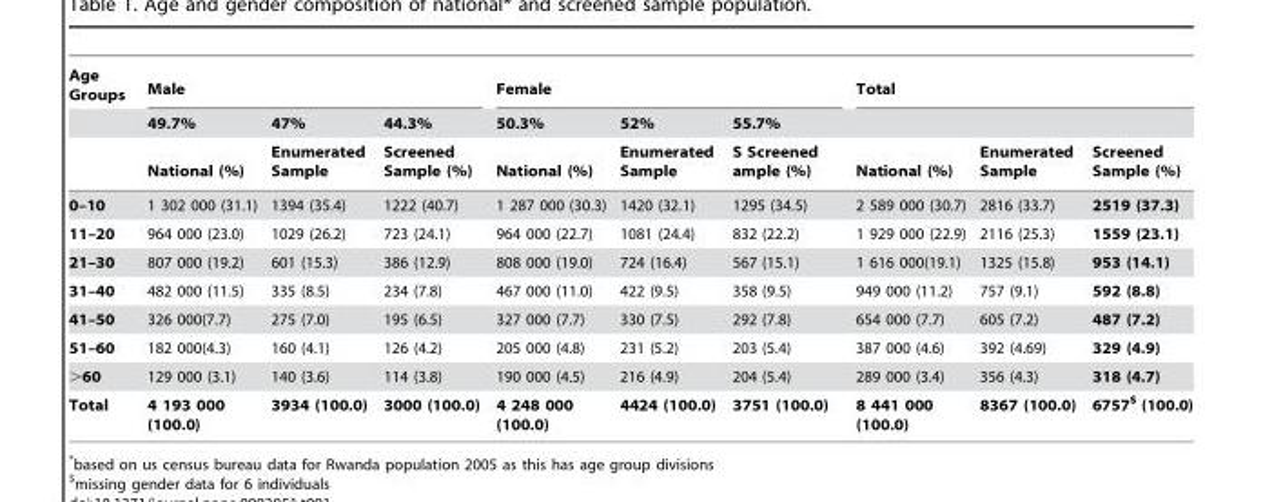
<table><thead><tr><td rowspan="3">Age Groups</td><td colspan="3">Male</td><td colspan="3">Female</td><td colspan="3">Total</td></tr><tr><td rowspan="2">49.7% National (%)</td><td rowspan="2">47% Enumerated Sample</td><td rowspan="2">44.3% Screened Sample (%)</td><td rowspan="2">50.3% National (%)</td><td rowspan="2">52% Enumerated Sample</td><td rowspan="2">55.7% S Screened ample (%)</td><td rowspan="2">National (%)</td><td rowspan="2">Enumerated Sample</td><td rowspan="2">Screened Sample (%)</td></tr><tr></tr></thead><tbody><tr><td>0–10</td><td>1 302 000 (31.1)</td><td>1394 (35.4)</td><td>1222 (40.7)</td><td>1 287 000 (30.3)</td><td>1420 (32.1)</td><td>1295 (34.5)</td><td>2 589 000 (30.7)</td><td>2816 (33.7)</td><td>2519 (37.3)</td></tr><tr><td>11–20</td><td>964 000 (23.0)</td><td>1029 (26.2)</td><td>723 (24.1)</td><td>964 000 (22.7)</td><td>1081 (24.4)</td><td>832 (22.2)</td><td>1 929 000 (22.9)</td><td>2116 (25.3)</td><td>1559 (23.1)</td></tr><tr><td>21–30</td><td>807 000 (19.2)</td><td>601 (15.3)</td><td>386 (12.9)</td><td>808 000 (19.0)</td><td>724 (16.4)</td><td>567 (15.1)</td><td>1 616 000(19.1)</td><td>1325 (15.8)</td><td>953 (14.1)</td></tr><tr><td>31–40</td><td>482 000 (11.5)</td><td>335 (8.5)</td><td>234 (7.8)</td><td>467 000 (11.0)</td><td>422 (9.5)</td><td>358 (9.5)</td><td>949 000 (11.2)</td><td>757 (9.1)</td><td>592 (8.8)</td></tr><tr><td>41–50</td><td>326 000(7.7)</td><td>275 (7.0)</td><td>195 (6.5)</td><td>327 000 (7.7)</td><td>330 (7.5)</td><td>292 (7.8)</td><td>654 000 (7.7)</td><td>605 (7.2)</td><td>487 (7.2)</td></tr><tr><td>51–60</td><td>182 000(4.3)</td><td>160 (4.1)</td><td>126 (4.2)</td><td>205 000 (4.8)</td><td>231 (5.2)</td><td>203 (5.4)</td><td>387 000 (4.6)</td><td>392 (4.69)</td><td>329 (4.9)</td></tr><tr><td>&gt;60</td><td>129 000 (3.1)</td><td>140 (3.6)</td><td>114 (3.8)</td><td>190 000 (4.5)</td><td>216 (4.9)</td><td>204 (5.4)</td><td>289 000 (3.4)</td><td>356 (4.3)</td><td>318 (4.7)</td></tr><tr><td>Total</td><td>4 193 000 (100.0)</td><td>3934 (100.0)</td><td>3000 (100.0)</td><td>4 248 000 (100.0)</td><td>4424 (100.0)</td><td>3751 (100.0)</td><td>8 441 000 (100.0)</td><td>8367 (100.0)</td><td>6757$ (100.0)</td></tr></tbody></table>